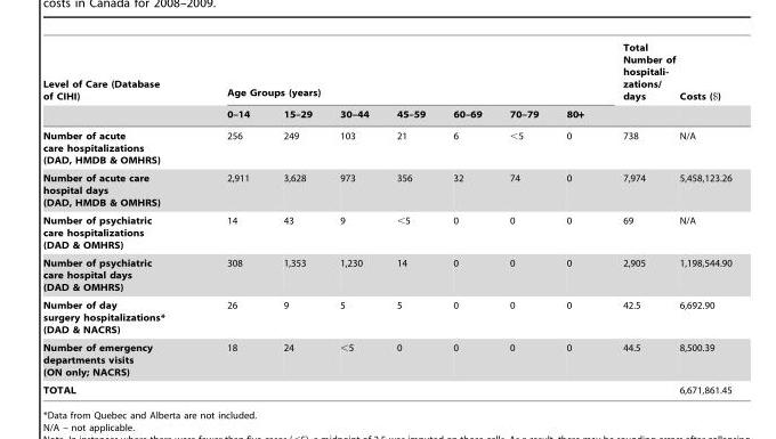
<table><thead><tr><td rowspan="2">Level of Care (Database of CIHI)</td><td colspan="7">Age Groups (years)</td><td rowspan="2">Total Number of hospitali- zations/ days</td><td rowspan="2">Costs ($)</td></tr><tr><td>0–14</td><td>15–29</td><td>30–44</td><td>45–59</td><td>60–69</td><td>70–79</td><td>80+</td></tr></thead><tbody><tr><td>Number of acute care hospitalizations (DAD, HMDB &amp; OMHRS)</td><td>256</td><td>249</td><td>103</td><td>21</td><td>6</td><td>&lt;5</td><td>0</td><td>738</td><td>N/A</td></tr><tr><td>Number of acute care hospital days (DAD, HMDB &amp; OMHRS)</td><td>2,911</td><td>3,628</td><td>973</td><td>356</td><td>32</td><td>74</td><td>0</td><td>7,974</td><td>5,458,123.26</td></tr><tr><td>Number of psychiatric care hospitalizations (DAD &amp; OMHRS)</td><td>14</td><td>43</td><td>9</td><td>&lt;5</td><td>0</td><td>0</td><td>0</td><td>69</td><td>N/A</td></tr><tr><td>Number of psychiatric care hospital days (DAD &amp; OMHRS)</td><td>308</td><td>1,353</td><td>1,230</td><td>14</td><td>0</td><td>0</td><td>0</td><td>2,905</td><td>1,198,544.90</td></tr><tr><td>Number of day surgery hospitalizations* (DAD &amp; NACRS)</td><td>26</td><td>9</td><td>5</td><td>5</td><td>0</td><td>0</td><td>0</td><td>42.5</td><td>6,692.90</td></tr><tr><td>Number of emergency departments visits (ON only; NACRS)</td><td>18</td><td>24</td><td>&lt;5</td><td>0</td><td>0</td><td>0</td><td>0</td><td>44.5</td><td>8,500.39</td></tr><tr><td>TOTAL</td><td></td><td></td><td></td><td></td><td></td><td></td><td></td><td></td><td>6,671,861.45</td></tr></tbody></table>